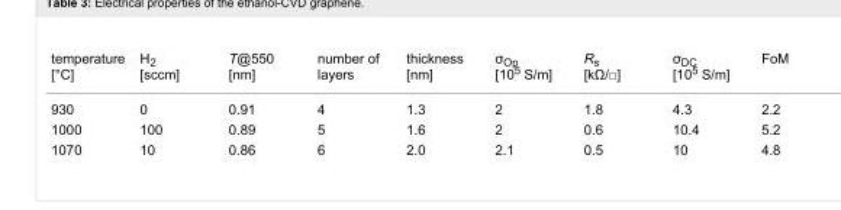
<table><tbody><tr><td>temperature [°C]</td><td>H<sub>2</sub> [sccm]</td><td>T@550 [nm]</td><td>number of layers</td><td>thickness [nm]</td><td>σ<sub>Op</sub> [10<sup>5</sup> S/m]</td><td>R<sub>s</sub> [kΩ/□]</td><td>σ<sub>DC</sub> [10<sup>5</sup> S/m]</td><td>FoM</td></tr><tr><td>930</td><td>0</td><td>0.91</td><td>4</td><td>1.3</td><td>2</td><td>1.8</td><td>4.3</td><td>2.2</td></tr><tr><td>1000</td><td>100</td><td>0.89</td><td>5</td><td>1.6</td><td>2</td><td>0.6</td><td>10.4</td><td>5.2</td></tr><tr><td>1070</td><td>10</td><td>0.86</td><td>6</td><td>2.0</td><td>2.1</td><td>0.5</td><td>10</td><td>4.8</td></tr></tbody></table>